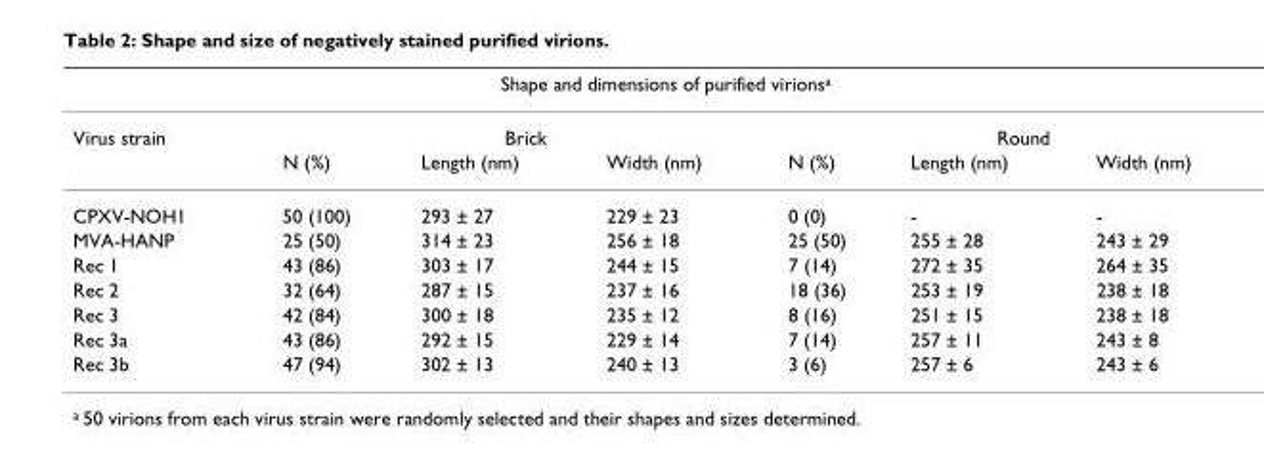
<table><thead><tr><td colspan="7">Shape and dimensions of purified virions<sup>a</sup></td></tr><tr><td rowspan="2">Virus strain</td><td colspan="3">Brick</td><td colspan="3">Round</td></tr><tr><td>N (%)</td><td>Length (nm)</td><td>Width (nm)</td><td>N (%)</td><td>Length (nm)</td><td>Width (nm)</td></tr></thead><tbody><tr><td>CPXV-NOH1</td><td>50 (100)</td><td>293 ± 27</td><td>229 ± 23</td><td>0 (0)</td><td>-</td><td>-</td></tr><tr><td>MVA-HANP</td><td>25 (50)</td><td>314 ± 23</td><td>256 ± 18</td><td>25 (50)</td><td>255 ± 28</td><td>243 ± 29</td></tr><tr><td>Rec 1</td><td>43 (86)</td><td>303 ± 17</td><td>244 ± 15</td><td>7 (14)</td><td>272 ± 35</td><td>264 ± 35</td></tr><tr><td>Rec 2</td><td>32 (64)</td><td>287 ± 15</td><td>237 ± 16</td><td>18 (36)</td><td>253 ± 19</td><td>238 ± 18</td></tr><tr><td>Rec 3</td><td>42 (84)</td><td>300 ± 18</td><td>235 ± 12</td><td>8 (16)</td><td>251 ± 15</td><td>238 ± 18</td></tr><tr><td>Rec 3a</td><td>43 (86)</td><td>292 ± 15</td><td>229 ± 14</td><td>7 (14)</td><td>257 ± 11</td><td>243 ± 8</td></tr><tr><td>Rec 3b</td><td>47 (94)</td><td>302 ± 13</td><td>240 ± 13</td><td>3 (6)</td><td>257 ± 6</td><td>243 ± 6</td></tr></tbody></table>